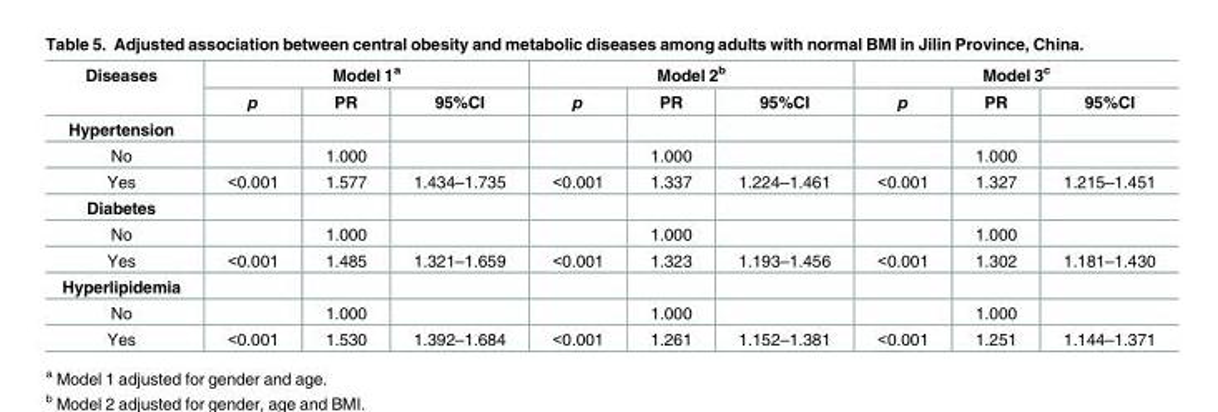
<table><thead><tr><td rowspan="2">Diseases</td><td colspan="3">Model 1<sup>a</sup></td><td colspan="3">Model 2<sup>b</sup></td><td colspan="3">Model 3<sup>c</sup></td></tr><tr><td>p</td><td>PR</td><td>95%CI</td><td>p</td><td>PR</td><td>95%CI</td><td>p</td><td>PR</td><td>95%CI</td></tr></thead><tbody><tr><td colspan="10">Hypertension</td></tr><tr><td>No</td><td></td><td>1.000</td><td></td><td></td><td>1.000</td><td></td><td></td><td>1.000</td><td></td></tr><tr><td>Yes</td><td>&lt;0.001</td><td>1.577</td><td>1.434–1.735</td><td>&lt;0.001</td><td>1.337</td><td>1.224–1.461</td><td>&lt;0.001</td><td>1.327</td><td>1.215–1.451</td></tr><tr><td colspan="10">Diabetes</td></tr><tr><td>No</td><td></td><td>1.000</td><td></td><td></td><td>1.000</td><td></td><td></td><td>1.000</td><td></td></tr><tr><td>Yes</td><td>&lt;0.001</td><td>1.485</td><td>1.321–1.659</td><td>&lt;0.001</td><td>1.323</td><td>1.193–1.456</td><td>&lt;0.001</td><td>1.302</td><td>1.181–1.430</td></tr><tr><td colspan="10">Hyperlipidemia</td></tr><tr><td>No</td><td></td><td>1.000</td><td></td><td></td><td>1.000</td><td></td><td></td><td>1.000</td><td></td></tr><tr><td>Yes</td><td>&lt;0.001</td><td>1.530</td><td>1.392–1.684</td><td>&lt;0.001</td><td>1.261</td><td>1.152–1.381</td><td>&lt;0.001</td><td>1.251</td><td>1.144–1.371</td></tr></tbody></table>